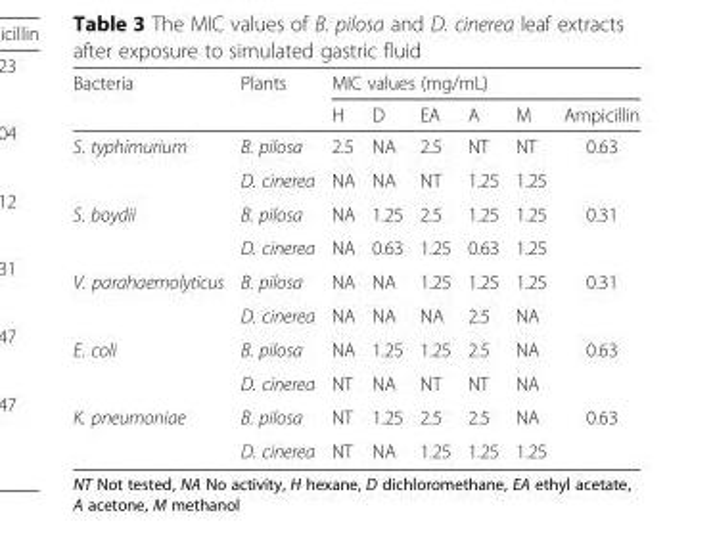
<table><thead><tr><td rowspan="2">Bacteria</td><td rowspan="2">Plants</td><td colspan="6">MIC values (mg/mL)</td></tr><tr><td>H</td><td>D</td><td>EA</td><td>A</td><td>M</td><td>Ampicillin</td></tr></thead><tbody><tr><td rowspan="2">S. typhimurium</td><td>B. pilosa</td><td>2.5</td><td>NA</td><td>2.5</td><td>NT</td><td>NT</td><td rowspan="2">0.63</td></tr><tr><td>D. cinerea</td><td>NA</td><td>NA</td><td>NT</td><td>1.25</td><td>1.25</td></tr><tr><td rowspan="2">S. boydii</td><td>B. pilosa</td><td>NA</td><td>1.25</td><td>2.5</td><td>1.25</td><td>1.25</td><td rowspan="2">0.31</td></tr><tr><td>D. cinerea</td><td>NA</td><td>0.63</td><td>1.25</td><td>0.63</td><td>1.25</td></tr><tr><td rowspan="2">V. parahaemolyticus</td><td>B. pilosa</td><td>NA</td><td>NA</td><td>1.25</td><td>1.25</td><td>1.25</td><td rowspan="2">0.31</td></tr><tr><td>D. cinerea</td><td>NA</td><td>NA</td><td>NA</td><td>2.5</td><td>NA</td></tr><tr><td rowspan="2">E. coli</td><td>B. pilosa</td><td>NA</td><td>1.25</td><td>1.25</td><td>2.5</td><td>NA</td><td rowspan="2">0.63</td></tr><tr><td>D. cinerea</td><td>NT</td><td>NA</td><td>NT</td><td>NT</td><td>NA</td></tr><tr><td rowspan="2">K. pneumoniae</td><td>B. pilosa</td><td>NT</td><td>1.25</td><td>2.5</td><td>2.5</td><td>NA</td><td rowspan="2">0.63</td></tr><tr><td>D. cinerea</td><td>NT</td><td>NA</td><td>1.25</td><td>1.25</td><td>1.25</td></tr></tbody></table>